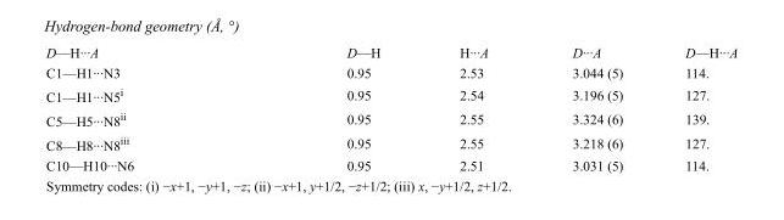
<table><tbody><tr><td>D—H···A</td><td>D—H</td><td>H···A</td><td>D···A</td><td>D—H···A</td></tr><tr><td>C1—H1···N3</td><td>0.95</td><td>2.53</td><td>3.044 (5)</td><td>114.</td></tr><tr><td>C1—H1···N5<sup>i</sup></td><td>0.95</td><td>2.54</td><td>3.196 (5)</td><td>127.</td></tr><tr><td>C5—H5···N8<sup>ii</sup></td><td>0.95</td><td>2.55</td><td>3.324 (6)</td><td>139.</td></tr><tr><td>C8—H8···N8<sup>iii</sup></td><td>0.95</td><td>2.55</td><td>3.218 (6)</td><td>127.</td></tr><tr><td>C10—H10···N6</td><td>0.95</td><td>2.51</td><td>3.031 (5)</td><td>114.</td></tr></tbody></table>